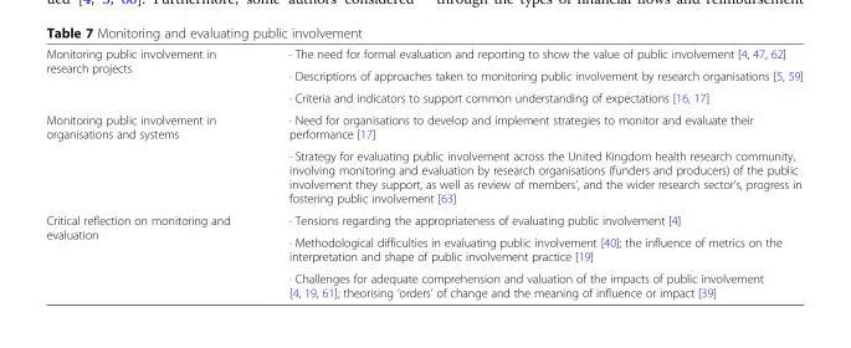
<table><tbody><tr><td rowspan="3">Monitoring public involvement in research projects</td><td>∙ The need for formal evaluation and reporting to show the value of public involvement [4, 47, 62]</td></tr><tr><td>∙ Descriptions of approaches taken to monitoring public involvement by research organisations [5, 59]</td></tr><tr><td>∙ Criteria and indicators to support common understanding of expectations [16, 17]</td></tr><tr><td rowspan="2">Monitoring public involvement in organisations and systems</td><td>∙ Need for organisations to develop and implement strategies to monitor and evaluate their performance [17]</td></tr><tr><td>∙ Strategy for evaluating public involvement across the United Kingdom health research community, involving monitoring and evaluation by research organisations (funders and producers) of the public involvement they support, as well as review of members’, and the wider research sector’s, progress in fostering public involvement [63]</td></tr><tr><td rowspan="3">Critical reflection on monitoring and evaluation</td><td>∙ Tensions regarding the appropriateness of evaluating public involvement [4]</td></tr><tr><td>∙ Methodological difficulties in evaluating public involvement [40]; the influence of metrics on the interpretation and shape of public involvement practice [19]</td></tr><tr><td>∙ Challenges for adequate comprehension and valuation of the impacts of public involvement [4, 19, 61]; theorising ‘orders’ of change and the meaning of influence or impact [39]</td></tr></tbody></table>